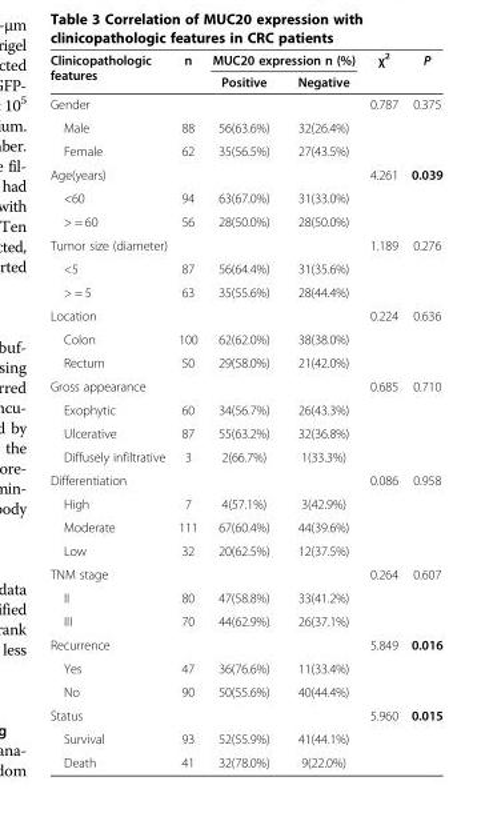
<table><thead><tr><td rowspan="2">Clinicopathologic features</td><td rowspan="2">n</td><td colspan="2">MUC20 expression n (%)</td><td rowspan="2">χ<sup>2</sup></td><td rowspan="2">P</td></tr><tr><td>Positive</td><td>Negative</td></tr></thead><tbody><tr><td>Gender</td><td></td><td></td><td></td><td>0.787</td><td>0.375</td></tr><tr><td>Male</td><td>88</td><td>56(63.6%)</td><td>32(26.4%)</td><td></td><td></td></tr><tr><td>Female</td><td>62</td><td>35(56.5%)</td><td>27(43.5%)</td><td></td><td></td></tr><tr><td>Age(years)</td><td></td><td></td><td></td><td>4.261</td><td>0.039</td></tr><tr><td>&lt;60</td><td>94</td><td>63(67.0%)</td><td>31(33.0%)</td><td></td><td></td></tr><tr><td>&gt; = 60</td><td>56</td><td>28(50.0%)</td><td>28(50.0%)</td><td></td><td></td></tr><tr><td colspan="2">Tumor size (diameter)</td><td></td><td></td><td>1.189</td><td>0.276</td></tr><tr><td>&lt;5</td><td>87</td><td>56(64.4%)</td><td>31(35.6%)</td><td></td><td></td></tr><tr><td>&gt; = 5</td><td>63</td><td>35(55.6%)</td><td>28(44.4%)</td><td></td><td></td></tr><tr><td>Location</td><td></td><td></td><td></td><td>0.224</td><td>0.636</td></tr><tr><td>Colon</td><td>100</td><td>62(62.0%)</td><td>38(38.0%)</td><td></td><td></td></tr><tr><td>Rectum</td><td>50</td><td>29(58.0%)</td><td>21(42.0%)</td><td></td><td></td></tr><tr><td>Gross appearance</td><td></td><td></td><td></td><td>0.685</td><td>0.710</td></tr><tr><td>Exophytic</td><td>60</td><td>34(56.7%)</td><td>26(43.3%)</td><td></td><td></td></tr><tr><td>Ulcerative</td><td>87</td><td>55(63.2%)</td><td>32(36.8%)</td><td></td><td></td></tr><tr><td>Diffusely infiltrative</td><td>3</td><td>2(66.7%)</td><td>1(33.3%)</td><td></td><td></td></tr><tr><td>Differentiation</td><td></td><td></td><td></td><td>0.086</td><td>0.958</td></tr><tr><td>High</td><td>7</td><td>4(57.1%)</td><td>3(42.9%)</td><td></td><td></td></tr><tr><td>Moderate</td><td>111</td><td>67(60.4%)</td><td>44(39.6%)</td><td></td><td></td></tr><tr><td>Low</td><td>32</td><td>20(62.5%)</td><td>12(37.5%)</td><td></td><td></td></tr><tr><td>TNM stage</td><td></td><td></td><td></td><td>0.264</td><td>0.607</td></tr><tr><td>II</td><td>80</td><td>47(58.8%)</td><td>33(41.2%)</td><td></td><td></td></tr><tr><td>III</td><td>70</td><td>44(62.9%)</td><td>26(37.1%)</td><td></td><td></td></tr><tr><td>Recurrence</td><td></td><td></td><td></td><td>5.849</td><td>0.016</td></tr><tr><td>Yes</td><td>47</td><td>36(76.6%)</td><td>11(33.4%)</td><td></td><td></td></tr><tr><td>No</td><td>90</td><td>50(55.6%)</td><td>40(44.4%)</td><td></td><td></td></tr><tr><td>Status</td><td></td><td></td><td></td><td>5.960</td><td>0.015</td></tr><tr><td>Survival</td><td>93</td><td>52(55.9%)</td><td>41(44.1%)</td><td></td><td></td></tr><tr><td>Death</td><td>41</td><td>32(78.0%)</td><td>9(22.0%)</td><td></td><td></td></tr></tbody></table>